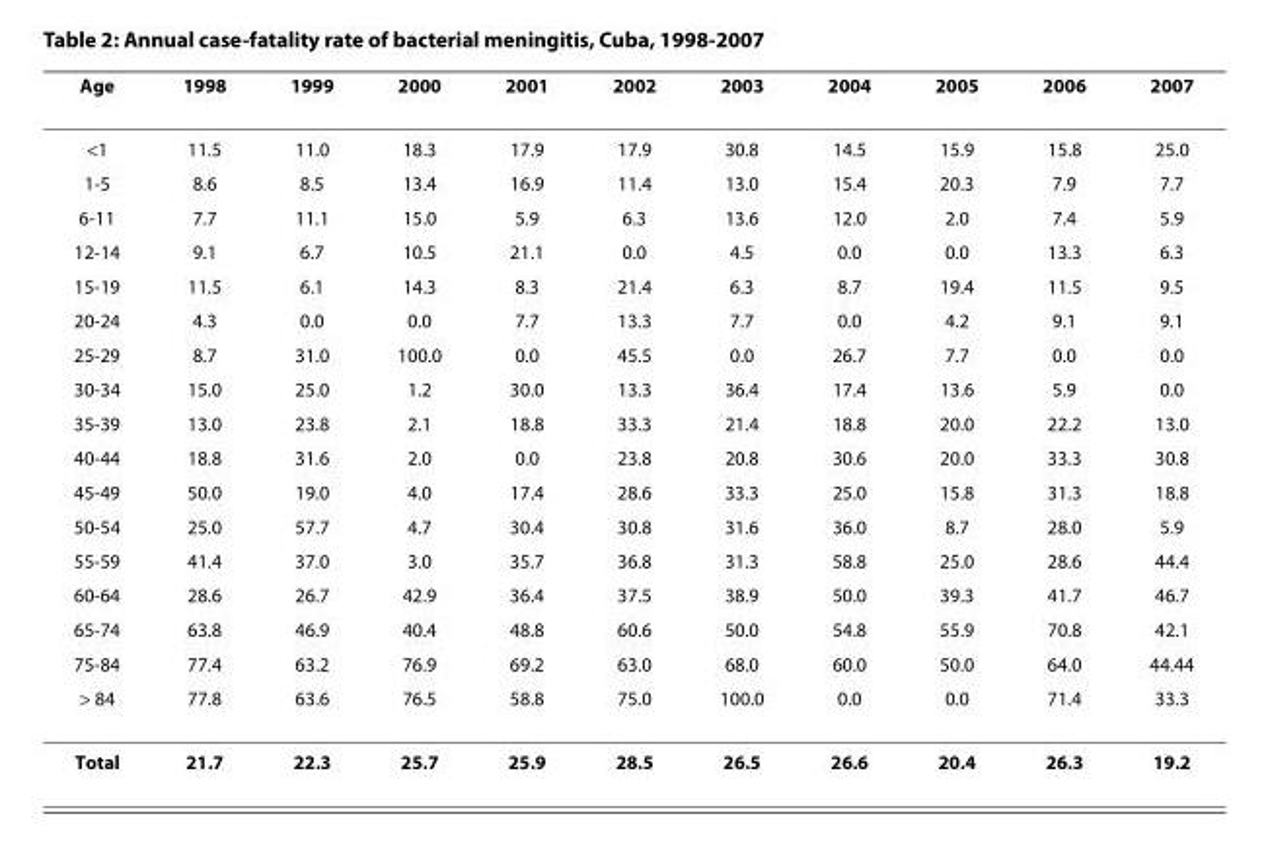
<table><thead><tr><td>Age</td><td>1998</td><td>1999</td><td>2000</td><td>2001</td><td>2002</td><td>2003</td><td>2004</td><td>2005</td><td>2006</td><td>2007</td></tr></thead><tbody><tr><td>&lt;1</td><td>11.5</td><td>11.0</td><td>18.3</td><td>17.9</td><td>17.9</td><td>30.8</td><td>14.5</td><td>15.9</td><td>15.8</td><td>25.0</td></tr><tr><td>1-5</td><td>8.6</td><td>8.5</td><td>13.4</td><td>16.9</td><td>11.4</td><td>13.0</td><td>15.4</td><td>20.3</td><td>7.9</td><td>7.7</td></tr><tr><td>6-11</td><td>7.7</td><td>11.1</td><td>15.0</td><td>5.9</td><td>6.3</td><td>13.6</td><td>12.0</td><td>2.0</td><td>7.4</td><td>5.9</td></tr><tr><td>12-14</td><td>9.1</td><td>6.7</td><td>10.5</td><td>21.1</td><td>0.0</td><td>4.5</td><td>0.0</td><td>0.0</td><td>13.3</td><td>6.3</td></tr><tr><td>15-19</td><td>11.5</td><td>6.1</td><td>14.3</td><td>8.3</td><td>21.4</td><td>6.3</td><td>8.7</td><td>19.4</td><td>11.5</td><td>9.5</td></tr><tr><td>20-24</td><td>4.3</td><td>0.0</td><td>0.0</td><td>7.7</td><td>13.3</td><td>7.7</td><td>0.0</td><td>4.2</td><td>9.1</td><td>9.1</td></tr><tr><td>25-29</td><td>8.7</td><td>31.0</td><td>100.0</td><td>0.0</td><td>45.5</td><td>0.0</td><td>26.7</td><td>7.7</td><td>0.0</td><td>0.0</td></tr><tr><td>30-34</td><td>15.0</td><td>25.0</td><td>1.2</td><td>30.0</td><td>13.3</td><td>36.4</td><td>17.4</td><td>13.6</td><td>5.9</td><td>0.0</td></tr><tr><td>35-39</td><td>13.0</td><td>23.8</td><td>2.1</td><td>18.8</td><td>33.3</td><td>21.4</td><td>18.8</td><td>20.0</td><td>22.2</td><td>13.0</td></tr><tr><td>40-44</td><td>18.8</td><td>31.6</td><td>2.0</td><td>0.0</td><td>23.8</td><td>20.8</td><td>30.6</td><td>20.0</td><td>33.3</td><td>30.8</td></tr><tr><td>45-49</td><td>50.0</td><td>19.0</td><td>4.0</td><td>17.4</td><td>28.6</td><td>33.3</td><td>25.0</td><td>15.8</td><td>31.3</td><td>18.8</td></tr><tr><td>50-54</td><td>25.0</td><td>57.7</td><td>4.7</td><td>30.4</td><td>30.8</td><td>31.6</td><td>36.0</td><td>8.7</td><td>28.0</td><td>5.9</td></tr><tr><td>55-59</td><td>41.4</td><td>37.0</td><td>3.0</td><td>35.7</td><td>36.8</td><td>31.3</td><td>58.8</td><td>25.0</td><td>28.6</td><td>44.4</td></tr><tr><td>60-64</td><td>28.6</td><td>26.7</td><td>42.9</td><td>36.4</td><td>37.5</td><td>38.9</td><td>50.0</td><td>39.3</td><td>41.7</td><td>46.7</td></tr><tr><td>65-74</td><td>63.8</td><td>46.9</td><td>40.4</td><td>48.8</td><td>60.6</td><td>50.0</td><td>54.8</td><td>55.9</td><td>70.8</td><td>42.1</td></tr><tr><td>75-84</td><td>77.4</td><td>63.2</td><td>76.9</td><td>69.2</td><td>63.0</td><td>68.0</td><td>60.0</td><td>50.0</td><td>64.0</td><td>44.44</td></tr><tr><td>&gt; 84</td><td>77.8</td><td>63.6</td><td>76.5</td><td>58.8</td><td>75.0</td><td>100.0</td><td>0.0</td><td>0.0</td><td>71.4</td><td>33.3</td></tr><tr><td>Total</td><td>21.7</td><td>22.3</td><td>25.7</td><td>25.9</td><td>28.5</td><td>26.5</td><td>26.6</td><td>20.4</td><td>26.3</td><td>19.2</td></tr></tbody></table>